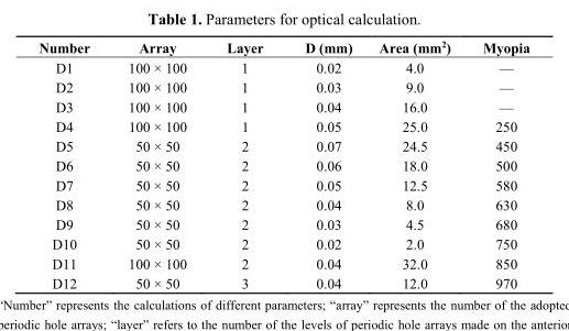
<table><thead><tr><td>Number</td><td>Array</td><td>Layer</td><td>D (mm)</td><td>Area (mm<sup>2</sup>)</td><td>Myopia</td></tr></thead><tbody><tr><td>D1</td><td>100 × 100</td><td>1</td><td>0.02</td><td>4.0</td><td>—</td></tr><tr><td>D2</td><td>100 × 100</td><td>1</td><td>0.03</td><td>9.0</td><td>—</td></tr><tr><td>D3</td><td>100 × 100</td><td>1</td><td>0.04</td><td>16.0</td><td>—</td></tr><tr><td>D4</td><td>100 × 100</td><td>1</td><td>0.05</td><td>25.0</td><td>250</td></tr><tr><td>D5</td><td>50 × 50</td><td>2</td><td>0.07</td><td>24.5</td><td>450</td></tr><tr><td>D6</td><td>50 × 50</td><td>2</td><td>0.06</td><td>18.0</td><td>500</td></tr><tr><td>D7</td><td>50 × 50</td><td>2</td><td>0.05</td><td>12.5</td><td>580</td></tr><tr><td>D8</td><td>50 × 50</td><td>2</td><td>0.04</td><td>8.0</td><td>630</td></tr><tr><td>D9</td><td>50 × 50</td><td>2</td><td>0.03</td><td>4.5</td><td>680</td></tr><tr><td>D10</td><td>50 × 50</td><td>2</td><td>0.02</td><td>2.0</td><td>750</td></tr><tr><td>D11</td><td>100 × 100</td><td>2</td><td>0.04</td><td>32.0</td><td>850</td></tr><tr><td>D12</td><td>50 × 50</td><td>3</td><td>0.04</td><td>12.0</td><td>970</td></tr></tbody></table>